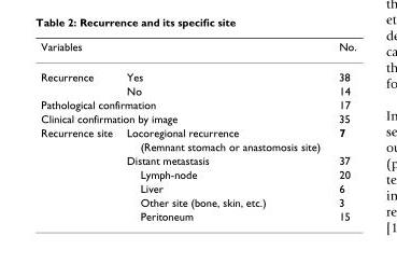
<table><thead><tr><td>Variables</td><td></td><td>No.</td></tr></thead><tbody><tr><td rowspan="2">Recurrence</td><td>Yes</td><td>38</td></tr><tr><td>No</td><td>14</td></tr><tr><td colspan="2">Pathological confirmation</td><td>17</td></tr><tr><td colspan="2">Clinical confirmation by image</td><td>35</td></tr><tr><td rowspan="7">Recurrence site</td><td>Locoregional recurrence</td><td>7</td></tr><tr><td>(Remnant stomach or anastomosis site)</td><td></td></tr><tr><td>Distant metastasis</td><td>37</td></tr><tr><td>Lymph-node</td><td>20</td></tr><tr><td>Liver</td><td>6</td></tr><tr><td>Other site (bone, skin, etc.)</td><td>3</td></tr><tr><td>Peritoneum</td><td>15</td></tr></tbody></table>